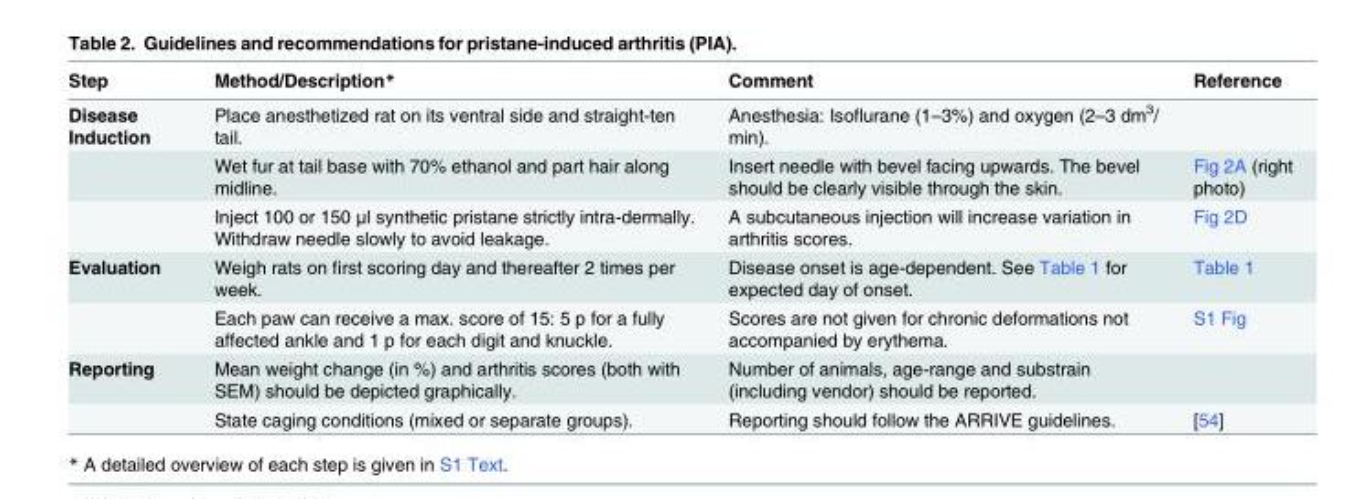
<table><thead><tr><td>Step</td><td>Method/Description*</td><td>Comment</td><td>Reference</td></tr></thead><tbody><tr><td rowspan="3">Disease Induction</td><td>Place anesthetized rat on its ventral side and straight-ten tail.</td><td>Anesthesia: Isoflurane (1–3%) and oxygen (2–3 dm<sup>3</sup>/ min).</td><td></td></tr><tr><td>Wet fur at tail base with 70% ethanol and part hair along midline.</td><td>Insert needle with bevel facing upwards. The bevel should be clearly visible through the skin.</td><td>Fig 2A (right photo)</td></tr><tr><td>Inject 100 or 150 μl synthetic pristane strictly intra-dermally. Withdraw needle slowly to avoid leakage.</td><td>A subcutaneous injection will increase variation in arthritis scores.</td><td>Fig 2D</td></tr><tr><td rowspan="2">Evaluation</td><td>Weigh rats on first scoring day and thereafter 2 times per week.</td><td>Disease onset is age-dependent. See Table 1 for expected day of onset.</td><td>Table 1</td></tr><tr><td>Each paw can receive a max. score of 15: 5 p for a fully affected ankle and 1 p for each digit and knuckle.</td><td>Scores are not given for chronic deformations not accompanied by erythema.</td><td>S1 Fig</td></tr><tr><td rowspan="2">Reporting</td><td>Mean weight change (in %) and arthritis scores (both with SEM) should be depicted graphically.</td><td>Number of animals, age-range and substrain (including vendor) should be reported.</td><td></td></tr><tr><td>State caging conditions (mixed or separate groups).</td><td>Reporting should follow the ARRIVE guidelines.</td><td>[54]</td></tr></tbody></table>